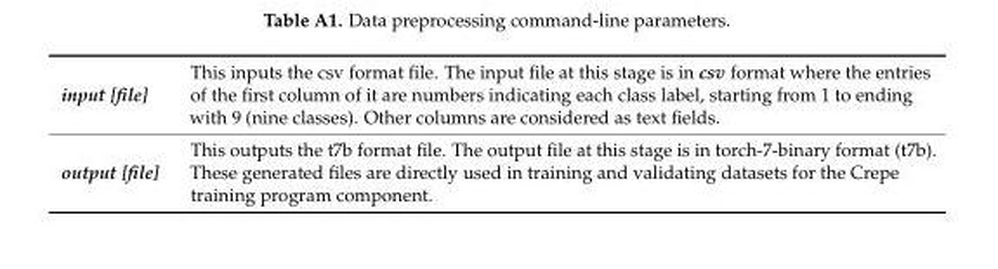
<table><tbody><tr><td>input [file]</td><td>This inputs the csv format file. The input file at this stage is in csv format where the entries of the first column of it are numbers indicating each class label, starting from 1 to ending with 9 (nine classes). Other columns are considered as text fields.</td></tr><tr><td>output [file]</td><td>This outputs the t7b format file. The output file at this stage is in torch-7-binary format (t7b). These generated files are directly used in training and validating datasets for the Crepe training program component.</td></tr></tbody></table>